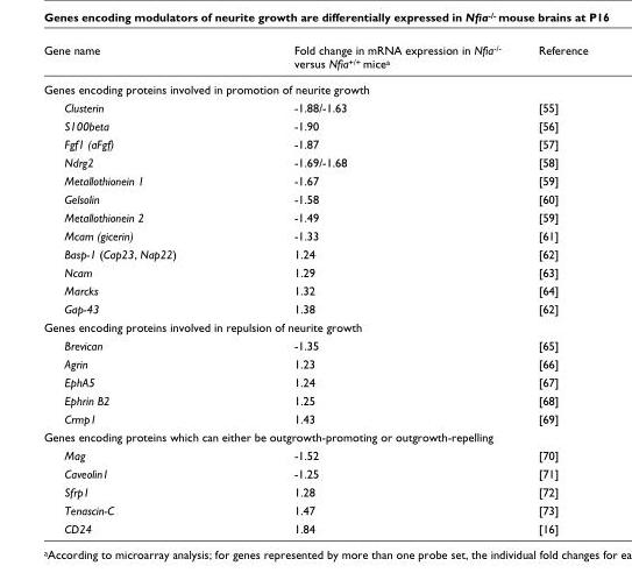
<table><thead><tr><td>Gene name</td><td>Fold change in mRNA expression in Nfia<sup>-/-</sup> versus Nfia<sup>+/+</sup> mice<sup>a</sup></td><td>Reference</td></tr></thead><tbody><tr><td colspan="3">Genes encoding proteins involved in promotion of neurite growth</td></tr><tr><td>Clusterin</td><td>-1.88/-1.63</td><td>[55]</td></tr><tr><td>S100beta</td><td>-1.90</td><td>[56]</td></tr><tr><td>Fgf1 (aFgf)</td><td>-1.87</td><td>[57]</td></tr><tr><td>Ndrg2</td><td>-1.69/-1.68</td><td>[58]</td></tr><tr><td>Metallothionein 1</td><td>-1.67</td><td>[59]</td></tr><tr><td>Gelsolin</td><td>-1.58</td><td>[60]</td></tr><tr><td>Metallothionein 2</td><td>-1.49</td><td>[59]</td></tr><tr><td>Mcam (gicerin)</td><td>-1.33</td><td>[61]</td></tr><tr><td>Basp-1 (Cap23, Nap22)</td><td>1.24</td><td>[62]</td></tr><tr><td>Ncam</td><td>1.29</td><td>[63]</td></tr><tr><td>Marcks</td><td>1.32</td><td>[64]</td></tr><tr><td>Gap-43</td><td>1.38</td><td>[62]</td></tr><tr><td colspan="3">Genes encoding proteins involved in repulsion of neurite growth</td></tr><tr><td>Brevican</td><td>-1.35</td><td>[65]</td></tr><tr><td>Agrin</td><td>1.23</td><td>[66]</td></tr><tr><td>EphA5</td><td>1.24</td><td>[67]</td></tr><tr><td>Ephrin B2</td><td>1.25</td><td>[68]</td></tr><tr><td>Crmp1</td><td>1.43</td><td>[69]</td></tr><tr><td colspan="3">Genes encoding proteins which can either be outgrowth-promoting or outgrowth-repelling</td></tr><tr><td>Mag</td><td>-1.52</td><td>[70]</td></tr><tr><td>Caveolin1</td><td>-1.25</td><td>[71]</td></tr><tr><td>Sfrp1</td><td>1.28</td><td>[72]</td></tr><tr><td>Tenascin-C</td><td>1.47</td><td>[73]</td></tr><tr><td>CD24</td><td>1.84</td><td>[16]</td></tr></tbody></table>